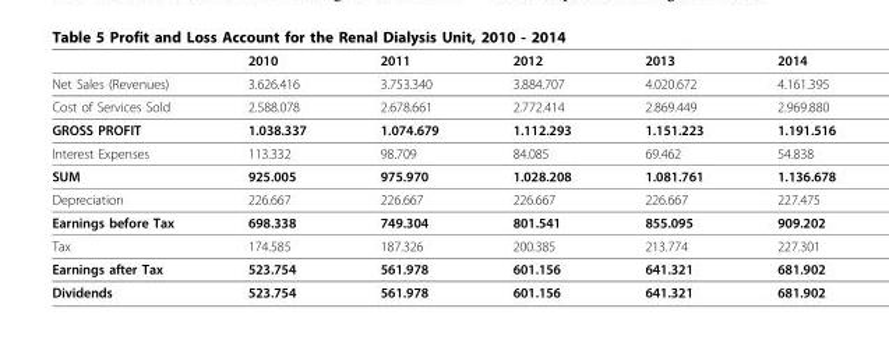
<table><thead><tr><td></td><td>2010</td><td>2011</td><td>2012</td><td>2013</td><td>2014</td></tr></thead><tbody><tr><td>Net Sales (Revenues)</td><td>3.626.416</td><td>3.753.340</td><td>3.884.707</td><td>4.020.672</td><td>4.161.395</td></tr><tr><td>Cost of Services Sold</td><td>2.588.078</td><td>2.678.661</td><td>2.772.414</td><td>2.869.449</td><td>2.969.880</td></tr><tr><td>GROSS PROFIT</td><td>1.038.337</td><td>1.074.679</td><td>1.112.293</td><td>1.151.223</td><td>1.191.516</td></tr><tr><td>Interest Expenses</td><td>113.332</td><td>98.709</td><td>84.085</td><td>69.462</td><td>54.838</td></tr><tr><td>SUM</td><td>925.005</td><td>975.970</td><td>1.028.208</td><td>1.081.761</td><td>1.136.678</td></tr><tr><td>Depreciation</td><td>226.667</td><td>226.667</td><td>226.667</td><td>226.667</td><td>227.475</td></tr><tr><td>Earnings before Tax</td><td>698.338</td><td>749.304</td><td>801.541</td><td>855.095</td><td>909.202</td></tr><tr><td>Tax</td><td>174.585</td><td>187.326</td><td>200.385</td><td>213.774</td><td>227.301</td></tr><tr><td>Earnings after Tax</td><td>523.754</td><td>561.978</td><td>601.156</td><td>641.321</td><td>681.902</td></tr><tr><td>Dividends</td><td>523.754</td><td>561.978</td><td>601.156</td><td>641.321</td><td>681.902</td></tr></tbody></table>